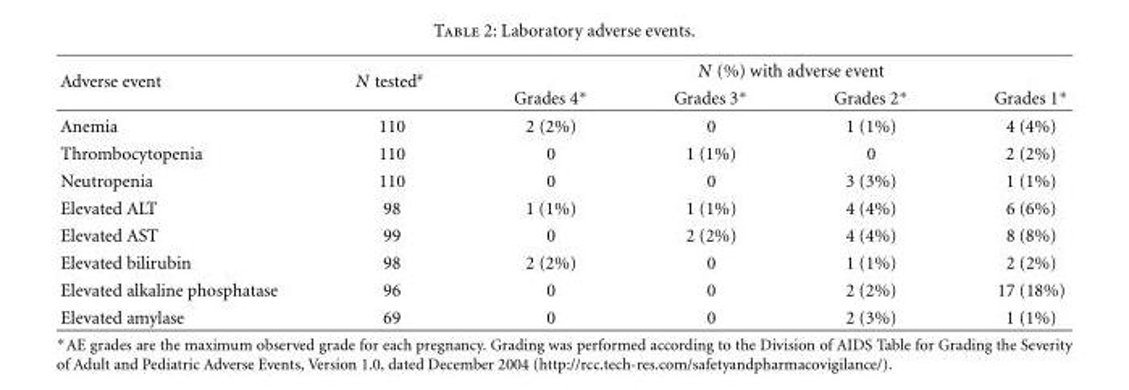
<table><thead><tr><td rowspan="2">Adverse event</td><td rowspan="2">N tested<sup>#</sup></td><td colspan="4">N (%) with adverse event</td></tr><tr><td>Grades 4∗</td><td>Grades 3∗</td><td>Grades 2∗</td><td>Grades 1∗</td></tr></thead><tbody><tr><td>Anemia</td><td>110</td><td>2 (2%)</td><td>0</td><td>1 (1%)</td><td>4 (4%)</td></tr><tr><td>Thrombocytopenia</td><td>110</td><td>0</td><td>1 (1%)</td><td>0</td><td>2 (2%)</td></tr><tr><td>Neutropenia</td><td>110</td><td>0</td><td>0</td><td>3 (3%)</td><td>1 (1%)</td></tr><tr><td>Elevated ALT</td><td>98</td><td>1 (1%)</td><td>1 (1%)</td><td>4 (4%)</td><td>6 (6%)</td></tr><tr><td>Elevated AST</td><td>99</td><td>0</td><td>2 (2%)</td><td>4 (4%)</td><td>8 (8%)</td></tr><tr><td>Elevated bilirubin</td><td>98</td><td>2 (2%)</td><td>0</td><td>1 (1%)</td><td>2 (2%)</td></tr><tr><td>Elevated alkaline phosphatase</td><td>96</td><td>0</td><td>0</td><td>2 (2%)</td><td>17 (18%)</td></tr><tr><td>Elevated amylase</td><td>69</td><td>0</td><td>0</td><td>2 (3%)</td><td>1 (1%)</td></tr></tbody></table>